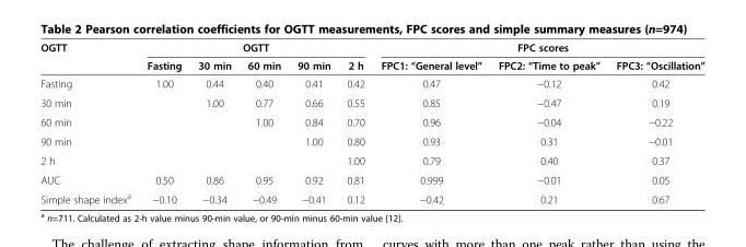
<table><thead><tr><td rowspan="2">OGTT</td><td colspan="5">OGTT</td><td colspan="3">FPC scores</td></tr><tr><td>Fasting</td><td>30 min</td><td>60 min</td><td>90 min</td><td>2 h</td><td>FPC1: “General level”</td><td>FPC2: “Time to peak”</td><td>FPC3: “Oscillation”</td></tr></thead><tbody><tr><td>Fasting</td><td>1.00</td><td>0.44</td><td>0.40</td><td>0.41</td><td>0.42</td><td>0.47</td><td>−0.12</td><td>0.42</td></tr><tr><td>30 min</td><td></td><td>1.00</td><td>0.77</td><td>0.66</td><td>0.55</td><td>0.85</td><td>−0.47</td><td>0.19</td></tr><tr><td>60 min</td><td></td><td></td><td>1.00</td><td>0.84</td><td>0.70</td><td>0.96</td><td>−0.04</td><td>−0.22</td></tr><tr><td>90 min</td><td></td><td></td><td></td><td>1.00</td><td>0.80</td><td>0.93</td><td>0.31</td><td>−0.01</td></tr><tr><td>2 h</td><td></td><td></td><td></td><td></td><td>1.00</td><td>0.79</td><td>0.40</td><td>0.37</td></tr><tr><td>AUC</td><td>0.50</td><td>0.86</td><td>0.95</td><td>0.92</td><td>0.81</td><td>0.999</td><td>−0.01</td><td>0.05</td></tr><tr><td>Simple shape index<sup>a</sup></td><td>−0.10</td><td>−0.34</td><td>−0.49</td><td>−0.41</td><td>0.12</td><td>−0.42</td><td>0.21</td><td>0.67</td></tr></tbody></table>